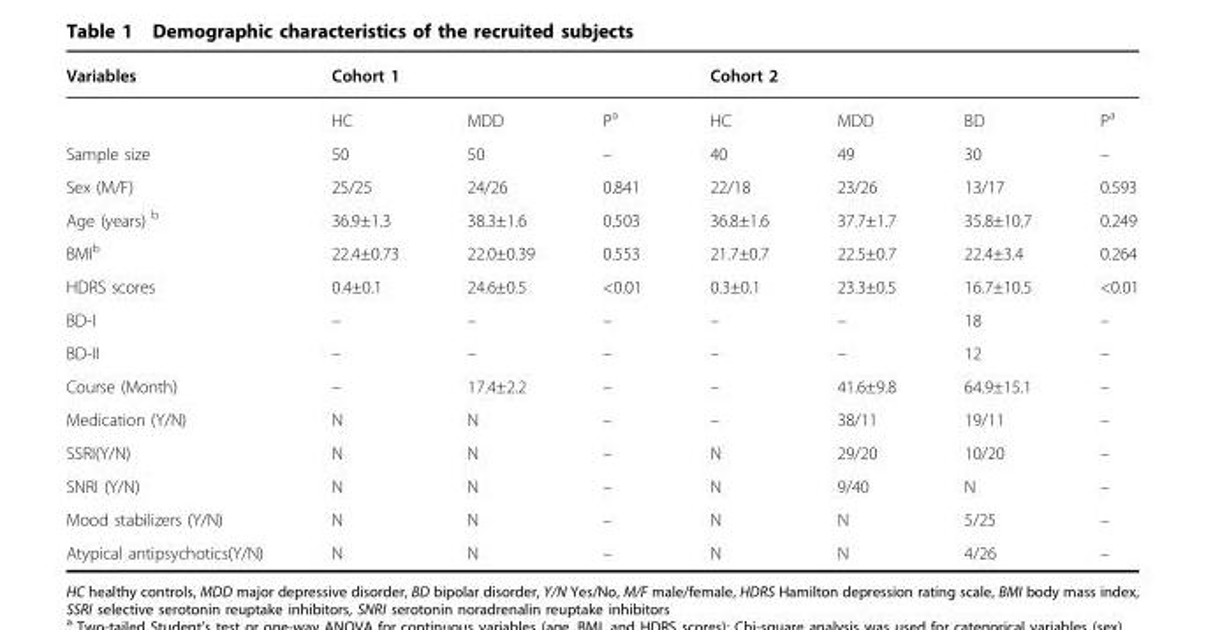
<table><thead><tr><td rowspan="2">Variables</td><td colspan="3">Cohort 1</td><td colspan="4">Cohort 2</td></tr><tr><td>HC</td><td>MDD</td><td>P<sup>a</sup></td><td>HC</td><td>MDD</td><td>BD</td><td>P<sup>a</sup></td></tr></thead><tbody><tr><td>Sample size</td><td>50</td><td>50</td><td>–</td><td>40</td><td>49</td><td>30</td><td>–</td></tr><tr><td>Sex (M/F)</td><td>25/25</td><td>24/26</td><td>0.841</td><td>22/18</td><td>23/26</td><td>13/17</td><td>0.593</td></tr><tr><td>Age (years) <sup>b</sup></td><td>36.9±1.3</td><td>38.3±1.6</td><td>0.503</td><td>36.8±1.6</td><td>37.7±1.7</td><td>35.8±10.7</td><td>0.249</td></tr><tr><td>BMI<sup>b</sup></td><td>22.4±0.73</td><td>22.0±0.39</td><td>0.553</td><td>21.7±0.7</td><td>22.5±0.7</td><td>22.4±3.4</td><td>0.264</td></tr><tr><td>HDRS scores</td><td>0.4±0.1</td><td>24.6±0.5</td><td>&lt;0.01</td><td>0.3±0.1</td><td>23.3±0.5</td><td>16.7±10.5</td><td>&lt;0.01</td></tr><tr><td>BD-I</td><td>–</td><td>–</td><td>–</td><td>–</td><td>–</td><td>18</td><td>–</td></tr><tr><td>BD-II</td><td>–</td><td>–</td><td>–</td><td>–</td><td>–</td><td>12</td><td>–</td></tr><tr><td>Course (Month)</td><td>–</td><td>17.4±2.2</td><td>–</td><td>–</td><td>41.6±9.8</td><td>64.9±15.1</td><td>–</td></tr><tr><td>Medication (Y/N)</td><td>N</td><td>N</td><td>–</td><td>–</td><td>38/11</td><td>19/11</td><td>–</td></tr><tr><td>SSRI(Y/N)</td><td>N</td><td>N</td><td>–</td><td>N</td><td>29/20</td><td>10/20</td><td>–</td></tr><tr><td>SNRI (Y/N)</td><td>N</td><td>N</td><td>–</td><td>N</td><td>9/40</td><td>N</td><td>–</td></tr><tr><td>Mood stabilizers (Y/N)</td><td>N</td><td>N</td><td>–</td><td>N</td><td>N</td><td>5/25</td><td>–</td></tr><tr><td>Atypical antipsychotics(Y/N)</td><td>N</td><td>N</td><td>–</td><td>N</td><td>N</td><td>4/26</td><td>–</td></tr></tbody></table>